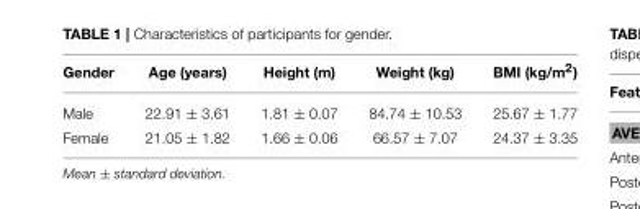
<table><thead><tr><td>Gender</td><td>Age (years)</td><td>Height (m)</td><td>Weight (kg)</td><td>BMI (kg/m<sup>2</sup>)</td></tr></thead><tbody><tr><td>Male</td><td>22.91 ± 3.61</td><td>1.81 ± 0.07</td><td>84.74 ± 10.53</td><td>25.67 ± 1.77</td></tr><tr><td>Female</td><td>21.05 ± 1.82</td><td>1.66 ± 0.06</td><td>66.57 ± 7.07</td><td>24.37 ± 3.35</td></tr></tbody></table>